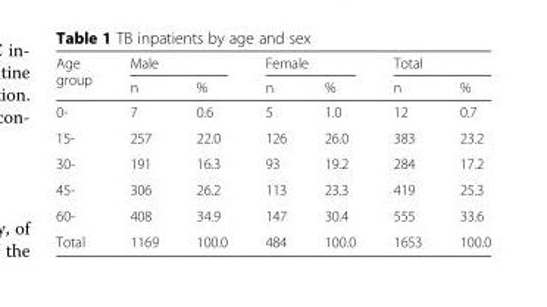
<table><thead><tr><td rowspan="2">Age group</td><td colspan="2">Male</td><td colspan="2">Female</td><td colspan="2">Total</td></tr><tr><td>n</td><td>%</td><td>n</td><td>%</td><td>n</td><td>%</td></tr></thead><tbody><tr><td>0-</td><td>7</td><td>0.6</td><td>5</td><td>1.0</td><td>12</td><td>0.7</td></tr><tr><td>15-</td><td>257</td><td>22.0</td><td>126</td><td>26.0</td><td>383</td><td>23.2</td></tr><tr><td>30-</td><td>191</td><td>16.3</td><td>93</td><td>19.2</td><td>284</td><td>17.2</td></tr><tr><td>45-</td><td>306</td><td>26.2</td><td>113</td><td>23.3</td><td>419</td><td>25.3</td></tr><tr><td>60-</td><td>408</td><td>34.9</td><td>147</td><td>30.4</td><td>555</td><td>33.6</td></tr><tr><td>Total</td><td>1169</td><td>100.0</td><td>484</td><td>100.0</td><td>1653</td><td>100.0</td></tr></tbody></table>